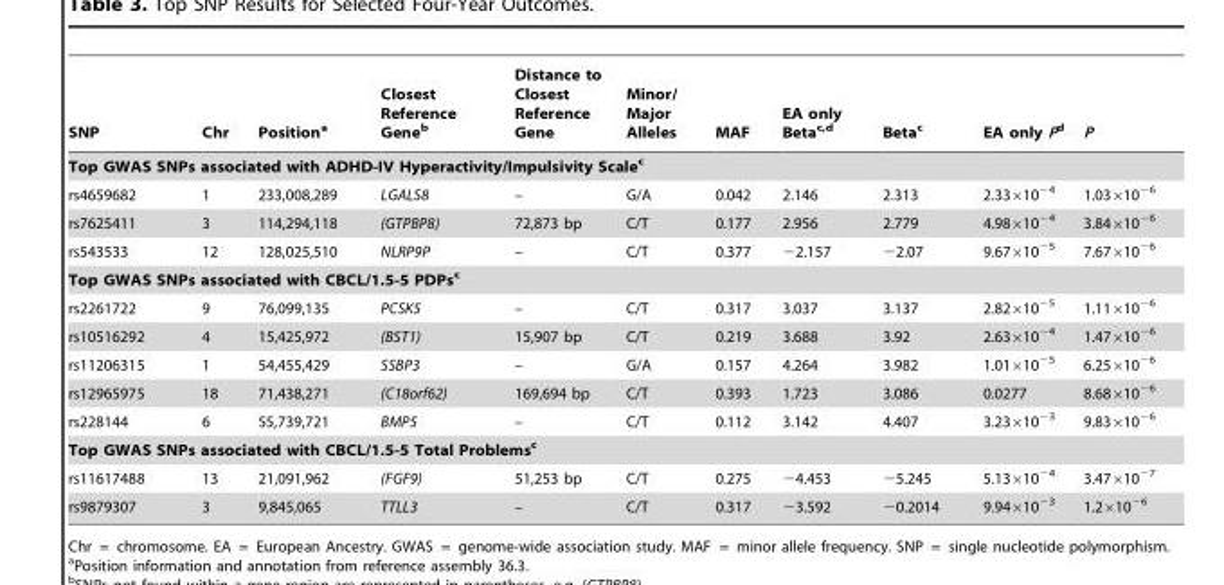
<table><thead><tr><td>SNP</td><td>Chr</td><td>Position<sup>a</sup></td><td>Closest Reference Gene<sup>b</sup></td><td>Distance to Closest Reference Gene</td><td>Minor/ Major Alleles</td><td>MAF</td><td>EA only Betac,d</td><td>Beta<sup>c</sup></td><td>EA only Pd</td><td>P</td></tr></thead><tbody><tr><td colspan="11">Top GWAS SNPs associated with ADHD-IV Hyperactivity/Impulsivity Scalec</td></tr><tr><td>rs4659682</td><td>1</td><td>233,008,289</td><td>LGALS8</td><td>–</td><td>G/A</td><td>0.042</td><td>2.146</td><td>2.313</td><td>2.33×10<sup>−4</sup></td><td>1.03×10<sup>−6</sup></td></tr><tr><td>rs7625411</td><td>3</td><td>114,294,118</td><td>(GTPBP8)</td><td>72,873 bp</td><td>C/T</td><td>0.177</td><td>2.956</td><td>2.779</td><td>4.98×10<sup>−4</sup></td><td>3.84×10<sup>−6</sup></td></tr><tr><td>rs543533</td><td>12</td><td>128,025,510</td><td>NLRP9P</td><td>–</td><td>C/T</td><td>0.377</td><td>−2.157</td><td>−2.07</td><td>9.67×10<sup>−5</sup></td><td>7.67×10<sup>−6</sup></td></tr><tr><td colspan="11">Top GWAS SNPs associated with CBCL/1.5-5 PDPsc</td></tr><tr><td>rs2261722</td><td>9</td><td>76,099,135</td><td>PCSK5</td><td>–</td><td>C/T</td><td>0.317</td><td>3.037</td><td>3.137</td><td>2.82×10<sup>−5</sup></td><td>1.11×10<sup>−6</sup></td></tr><tr><td>rs10516292</td><td>4</td><td>15,425,972</td><td>(BST1)</td><td>15,907 bp</td><td>C/T</td><td>0.219</td><td>3.688</td><td>3.92</td><td>2.63×10<sup>−4</sup></td><td>1.47×10<sup>−6</sup></td></tr><tr><td>rs11206315</td><td>1</td><td>54,455,429</td><td>SSBP3</td><td>–</td><td>G/A</td><td>0.157</td><td>4.264</td><td>3.982</td><td>1.01×10<sup>−5</sup></td><td>6.25×10<sup>−6</sup></td></tr><tr><td>rs12965975</td><td>18</td><td>71,438,271</td><td>(C18orf62)</td><td>169,694 bp</td><td>C/T</td><td>0.393</td><td>1.723</td><td>3.086</td><td>0.0277</td><td>8.68×10<sup>−6</sup></td></tr><tr><td>rs228144</td><td>6</td><td>55,739,721</td><td>BMP5</td><td>–</td><td>C/T</td><td>0.112</td><td>3.142</td><td>4.407</td><td>3.23×10<sup>−3</sup></td><td>9.83×10<sup>−6</sup></td></tr><tr><td colspan="11">Top GWAS SNPs associated with CBCL/1.5-5 Total Problemsc</td></tr><tr><td>rs11617488</td><td>13</td><td>21,091,962</td><td>(FGF9)</td><td>51,253 bp</td><td>C/T</td><td>0.275</td><td>−4.453</td><td>−5.245</td><td>5.13×10<sup>−4</sup></td><td>3.47×10<sup>−7</sup></td></tr><tr><td>rs9879307</td><td>3</td><td>9,845,065</td><td>TTLL3</td><td>–</td><td>C/T</td><td>0.317</td><td>−3.592</td><td>−0.2014</td><td>9.94×10<sup>−3</sup></td><td>1.2×10<sup>−6</sup></td></tr></tbody></table>